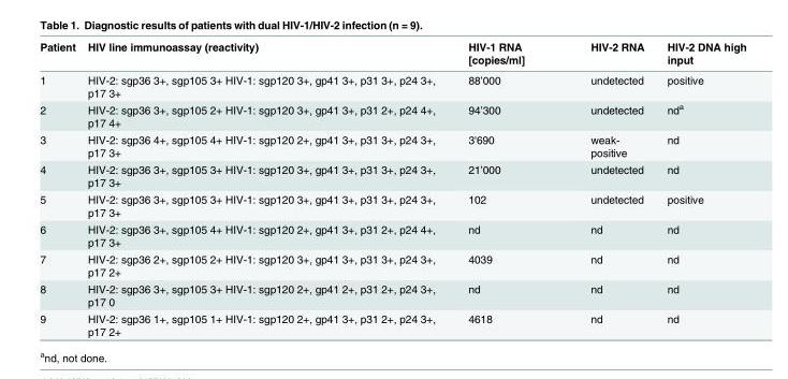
<table><thead><tr><td>Patient</td><td>HIV line immunoassay (reactivity)</td><td>HIV-1 RNA [copies/ml]</td><td>HIV-2 RNA</td><td>HIV-2 DNA high input</td></tr></thead><tbody><tr><td>1</td><td>HIV-2: sgp36 3+, sgp105 3+ HIV-1: sgp120 3+, gp41 3+, p31 3+, p24 3+, p17 3+</td><td>88’000</td><td>undetected</td><td>positive</td></tr><tr><td>2</td><td>HIV-2: sgp36 3+, sgp105 2+ HIV-1: sgp120 3+, gp41 3+, p31 2+, p24 4+, p17 4+</td><td>94’300</td><td>undetected</td><td>nd<sup>a</sup></td></tr><tr><td>3</td><td>HIV-2: sgp36 4+, sgp105 4+ HIV-1: sgp120 2+, gp41 3+, p31 3+, p24 3+, p17 3+</td><td>3&#x27;690</td><td>weak- positive</td><td>nd</td></tr><tr><td>4</td><td>HIV-2: sgp36 3+, sgp105 3+ HIV-1: sgp120 3+, gp41 3+, p31 3+, p24 3+, p17 3+</td><td>21’000</td><td>undetected</td><td>nd</td></tr><tr><td>5</td><td>HIV-2: sgp36 3+, sgp105 3+ HIV-1: sgp120 3+, gp41 3+, p31 3+, p24 3+, p17 3+</td><td>102</td><td>undetected</td><td>positive</td></tr><tr><td>6</td><td>HIV-2: sgp36 3+, sgp105 4+ HIV-1: sgp120 2+, gp41 3+, p31 2+, p24 4+, p17 3+</td><td>nd</td><td>nd</td><td>nd</td></tr><tr><td>7</td><td>HIV-2: sgp36 2+, sgp105 2+ HIV-1: sgp120 3+, gp41 3+, p31 3+, p24 3+, p17 2+</td><td>4039</td><td>nd</td><td>nd</td></tr><tr><td>8</td><td>HIV-2: sgp36 3+, sgp105 3+ HIV-1: sgp120 2+, gp41 2+, p31 2+, p24 3+, p17 0</td><td>nd</td><td>nd</td><td>nd</td></tr><tr><td>9</td><td>HIV-2: sgp36 1+, sgp105 1+ HIV-1: sgp120 2+, gp41 3+, p31 2+, p24 3+, p17 2+</td><td>4618</td><td>nd</td><td>nd</td></tr></tbody></table>